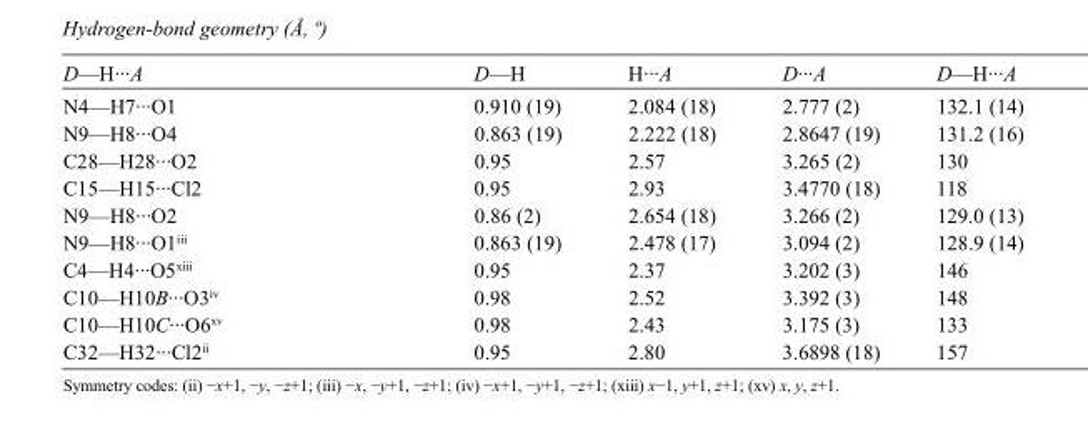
<table><tbody><tr><td>D—H···A</td><td>D—H</td><td>H···A</td><td>D···A</td><td>D—H···A</td></tr><tr><td>N4—H7···O1</td><td>0.910 (19)</td><td>2.084 (18)</td><td>2.777 (2)</td><td>132.1 (14)</td></tr><tr><td>N9—H8···O4</td><td>0.863 (19)</td><td>2.222 (18)</td><td>2.8647 (19)</td><td>131.2 (16)</td></tr><tr><td>C28—H28···O2</td><td>0.95</td><td>2.57</td><td>3.265 (2)</td><td>130</td></tr><tr><td>C15—H15···Cl2</td><td>0.95</td><td>2.93</td><td>3.4770 (18)</td><td>118</td></tr><tr><td>N9—H8···O2</td><td>0.86 (2)</td><td>2.654 (18)</td><td>3.266 (2)</td><td>129.0 (13)</td></tr><tr><td>N9—H8···O1<sup>iii</sup></td><td>0.863 (19)</td><td>2.478 (17)</td><td>3.094 (2)</td><td>128.9 (14)</td></tr><tr><td>C4—H4···O5<sup>xiii</sup></td><td>0.95</td><td>2.37</td><td>3.202 (3)</td><td>146</td></tr><tr><td>C10—H10B···O3<sup>iv</sup></td><td>0.98</td><td>2.52</td><td>3.392 (3)</td><td>148</td></tr><tr><td>C10—H10C···O6<sup>xv</sup></td><td>0.98</td><td>2.43</td><td>3.175 (3)</td><td>133</td></tr><tr><td>C32—H32···Cl2<sup>ii</sup></td><td>0.95</td><td>2.80</td><td>3.6898 (18)</td><td>157</td></tr></tbody></table>